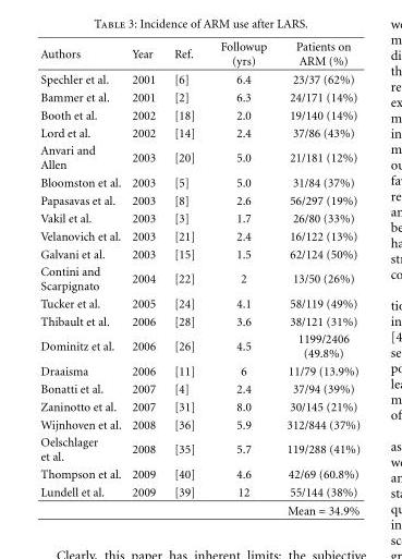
<table><thead><tr><td>Authors</td><td>Year</td><td>Ref.</td><td>Followup (yrs)</td><td>Patients on ARM (%)</td></tr></thead><tbody><tr><td>Spechler et al.</td><td>2001</td><td>[6]</td><td>6.4</td><td>23/37 (62%)</td></tr><tr><td>Bammer et al.</td><td>2001</td><td>[2]</td><td>6.3</td><td>24/171 (14%)</td></tr><tr><td>Booth et al.</td><td>2002</td><td>[18]</td><td>2.0</td><td>19/140 (14%)</td></tr><tr><td>Lord et al.</td><td>2002</td><td>[14]</td><td>2.4</td><td>37/86 (43%)</td></tr><tr><td>Anvari and Allen</td><td>2003</td><td>[20]</td><td>5.0</td><td>21/181 (12%)</td></tr><tr><td>Bloomston et al.</td><td>2003</td><td>[5]</td><td>5.0</td><td>31/84 (37%)</td></tr><tr><td>Papasavas et al.</td><td>2003</td><td>[8]</td><td>2.6</td><td>56/297 (19%)</td></tr><tr><td>Vakil et al.</td><td>2003</td><td>[3]</td><td>1.7</td><td>26/80 (33%)</td></tr><tr><td>Velanovich et al.</td><td>2003</td><td>[21]</td><td>2.4</td><td>16/122 (13%)</td></tr><tr><td>Galvani et al.</td><td>2003</td><td>[15]</td><td>1.5</td><td>62/124 (50%)</td></tr><tr><td>Contini and Scarpignato</td><td>2004</td><td>[22]</td><td>2</td><td>13/50 (26%)</td></tr><tr><td>Tucker et al.</td><td>2005</td><td>[24]</td><td>4.1</td><td>58/119 (49%)</td></tr><tr><td>Thibault et al.</td><td>2006</td><td>[28]</td><td>3.6</td><td>38/121 (31%)</td></tr><tr><td>Dominitz et al.</td><td>2006</td><td>[26]</td><td>4.5</td><td>1199/2406 (49.8%)</td></tr><tr><td>Draaisma</td><td>2006</td><td>[11]</td><td>6</td><td>11/79 (13.9%)</td></tr><tr><td>Bonatti et al.</td><td>2007</td><td>[4]</td><td>2.4</td><td>37/94 (39%)</td></tr><tr><td>Zaninotto et al.</td><td>2007</td><td>[31]</td><td>8.0</td><td>30/145 (21%)</td></tr><tr><td>Wijnhoven et al.</td><td>2008</td><td>[36]</td><td>5.9</td><td>312/844 (37%)</td></tr><tr><td>Oelschlager et al.</td><td>2008</td><td>[35]</td><td>5.7</td><td>119/288 (41%)</td></tr><tr><td>Thompson et al.</td><td>2009</td><td>[40]</td><td>4.6</td><td>42/69 (60.8%)</td></tr><tr><td rowspan="2">Lundell et al.</td><td>2009</td><td>[39]</td><td>12</td><td>55/144 (38%)</td></tr><tr><td></td><td></td><td></td><td>Mean = 34.9%</td></tr></tbody></table>